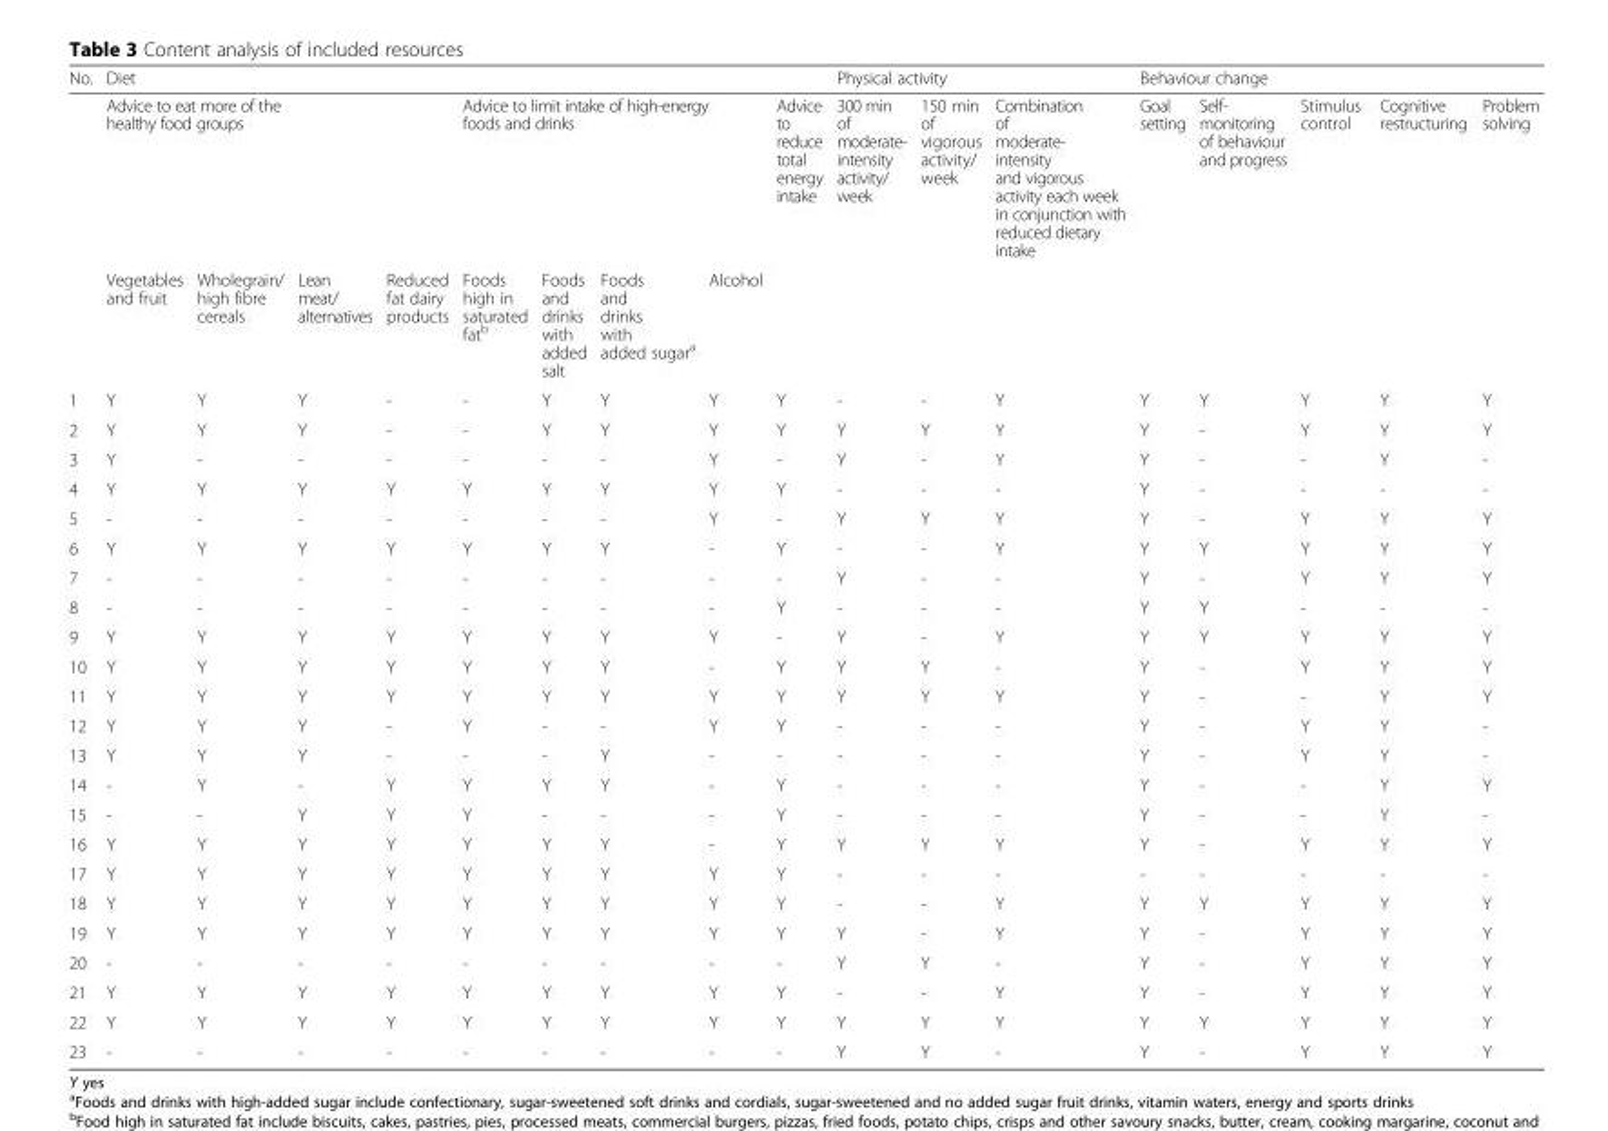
<table><thead><tr><td rowspan="3">No.</td><td colspan="9">Diet</td><td colspan="3">Physical activity</td><td colspan="5">Behaviour change</td></tr><tr><td colspan="4">Advice to eat more of the healthy food groups</td><td colspan="4">Advice to limit intake of high-energy foods and drinks</td><td rowspan="2">Advice to reduce total energy intake</td><td rowspan="2">300 min of moderate- intensity activity/ week</td><td rowspan="2">150 min of vigorous activity/ week</td><td rowspan="2">Combination of moderate- intensity and vigorous activity each week in conjunction with reduced dietary intake</td><td rowspan="2">Goal setting</td><td rowspan="2">Self- monitoring of behaviour and progress</td><td rowspan="2">Stimulus control</td><td rowspan="2">Cognitive restructuring</td><td rowspan="2">Problem solving</td></tr><tr><td>Vegetables and fruit</td><td>Wholegrain/ high fibre cereals</td><td>Lean meat/ alternatives</td><td>Reduced fat dairy products</td><td>Foods high in saturated fat<sup>b</sup></td><td>Foods and drinks with added salt</td><td>Foods and drinks with added sugar<sup>a</sup></td><td>Alcohol</td></tr></thead><tbody><tr><td>1</td><td>Y</td><td>Y</td><td>Y</td><td>-</td><td>-</td><td>Y</td><td>Y</td><td>Y</td><td>Y</td><td>-</td><td>-</td><td>Y</td><td>Y</td><td>Y</td><td>Y</td><td>Y</td><td>Y</td></tr><tr><td>2</td><td>Y</td><td>Y</td><td>Y</td><td>-</td><td>-</td><td>Y</td><td>Y</td><td>Y</td><td>Y</td><td>Y</td><td>Y</td><td>Y</td><td>Y</td><td>-</td><td>Y</td><td>Y</td><td>Y</td></tr><tr><td>3</td><td>Y</td><td>-</td><td>-</td><td>-</td><td>-</td><td>-</td><td>-</td><td>Y</td><td>-</td><td>Y</td><td>-</td><td>Y</td><td>Y</td><td>-</td><td>-</td><td>Y</td><td>-</td></tr><tr><td>4</td><td>Y</td><td>Y</td><td>Y</td><td>Y</td><td>Y</td><td>Y</td><td>Y</td><td>Y</td><td>Y</td><td>-</td><td>-</td><td>-</td><td>Y</td><td>-</td><td>-</td><td>-</td><td>-</td></tr><tr><td>5</td><td>-</td><td>-</td><td>-</td><td>-</td><td>-</td><td>-</td><td>-</td><td>Y</td><td>-</td><td>Y</td><td>Y</td><td>Y</td><td>Y</td><td>-</td><td>Y</td><td>Y</td><td>Y</td></tr><tr><td>6</td><td>Y</td><td>Y</td><td>Y</td><td>Y</td><td>Y</td><td>Y</td><td>Y</td><td>-</td><td>Y</td><td>-</td><td>-</td><td>Y</td><td>Y</td><td>Y</td><td>Y</td><td>Y</td><td>Y</td></tr><tr><td>7</td><td>-</td><td>-</td><td>-</td><td>-</td><td>-</td><td>-</td><td>-</td><td>-</td><td>-</td><td>Y</td><td>-</td><td>-</td><td>Y</td><td>-</td><td>Y</td><td>Y</td><td>Y</td></tr><tr><td>8</td><td>-</td><td>-</td><td>-</td><td>-</td><td>-</td><td>-</td><td>-</td><td>-</td><td>Y</td><td>-</td><td>-</td><td>-</td><td>Y</td><td>Y</td><td>-</td><td>-</td><td>-</td></tr><tr><td>9</td><td>Y</td><td>Y</td><td>Y</td><td>Y</td><td>Y</td><td>Y</td><td>Y</td><td>Y</td><td>-</td><td>Y</td><td>-</td><td>Y</td><td>Y</td><td>Y</td><td>Y</td><td>Y</td><td>Y</td></tr><tr><td>10</td><td>Y</td><td>Y</td><td>Y</td><td>Y</td><td>Y</td><td>Y</td><td>Y</td><td>-</td><td>Y</td><td>Y</td><td>Y</td><td>-</td><td>Y</td><td>-</td><td>Y</td><td>Y</td><td>Y</td></tr><tr><td>11</td><td>Y</td><td>Y</td><td>Y</td><td>Y</td><td>Y</td><td>Y</td><td>Y</td><td>Y</td><td>Y</td><td>Y</td><td>Y</td><td>Y</td><td>Y</td><td>-</td><td>-</td><td>Y</td><td>Y</td></tr><tr><td>12</td><td>Y</td><td>Y</td><td>Y</td><td>-</td><td>Y</td><td>-</td><td>-</td><td>Y</td><td>Y</td><td>-</td><td>-</td><td>-</td><td>Y</td><td>-</td><td>Y</td><td>Y</td><td>-</td></tr><tr><td>13</td><td>Y</td><td>Y</td><td>Y</td><td>-</td><td>-</td><td>-</td><td>Y</td><td>-</td><td>-</td><td>-</td><td>-</td><td>-</td><td>Y</td><td>-</td><td>Y</td><td>Y</td><td>-</td></tr><tr><td>14</td><td>-</td><td>Y</td><td>-</td><td>Y</td><td>Y</td><td>Y</td><td>Y</td><td>-</td><td>Y</td><td>-</td><td>-</td><td>-</td><td>Y</td><td>-</td><td>-</td><td>Y</td><td>Y</td></tr><tr><td>15</td><td>-</td><td>-</td><td>Y</td><td>Y</td><td>Y</td><td>-</td><td>-</td><td>-</td><td>Y</td><td>-</td><td>-</td><td>-</td><td>Y</td><td>-</td><td>-</td><td>Y</td><td>-</td></tr><tr><td>16</td><td>Y</td><td>Y</td><td>Y</td><td>Y</td><td>Y</td><td>Y</td><td>Y</td><td>-</td><td>Y</td><td>Y</td><td>Y</td><td>Y</td><td>Y</td><td>-</td><td>Y</td><td>Y</td><td>Y</td></tr><tr><td>17</td><td>Y</td><td>Y</td><td>Y</td><td>Y</td><td>Y</td><td>Y</td><td>Y</td><td>Y</td><td>Y</td><td>-</td><td>-</td><td>-</td><td>-</td><td>-</td><td>-</td><td>-</td><td>-</td></tr><tr><td>18</td><td>Y</td><td>Y</td><td>Y</td><td>Y</td><td>Y</td><td>Y</td><td>Y</td><td>Y</td><td>Y</td><td>-</td><td>-</td><td>Y</td><td>Y</td><td>Y</td><td>Y</td><td>Y</td><td>Y</td></tr><tr><td>19</td><td>Y</td><td>Y</td><td>Y</td><td>Y</td><td>Y</td><td>Y</td><td>Y</td><td>Y</td><td>Y</td><td>Y</td><td>-</td><td>Y</td><td>Y</td><td>-</td><td>Y</td><td>Y</td><td>Y</td></tr><tr><td>20</td><td>-</td><td>-</td><td>-</td><td>-</td><td>-</td><td>-</td><td>-</td><td>-</td><td>-</td><td>Y</td><td>Y</td><td>-</td><td>Y</td><td>-</td><td>Y</td><td>Y</td><td>Y</td></tr><tr><td>21</td><td>Y</td><td>Y</td><td>Y</td><td>Y</td><td>Y</td><td>Y</td><td>Y</td><td>Y</td><td>Y</td><td>-</td><td>-</td><td>Y</td><td>Y</td><td>-</td><td>Y</td><td>Y</td><td>Y</td></tr><tr><td>22</td><td>Y</td><td>Y</td><td>Y</td><td>Y</td><td>Y</td><td>Y</td><td>Y</td><td>Y</td><td>Y</td><td>Y</td><td>Y</td><td>Y</td><td>Y</td><td>Y</td><td>Y</td><td>Y</td><td>Y</td></tr><tr><td>23</td><td>-</td><td>-</td><td>-</td><td>-</td><td>-</td><td>-</td><td>-</td><td>-</td><td>-</td><td>Y</td><td>Y</td><td>-</td><td>Y</td><td>-</td><td>Y</td><td>Y</td><td>Y</td></tr></tbody></table>